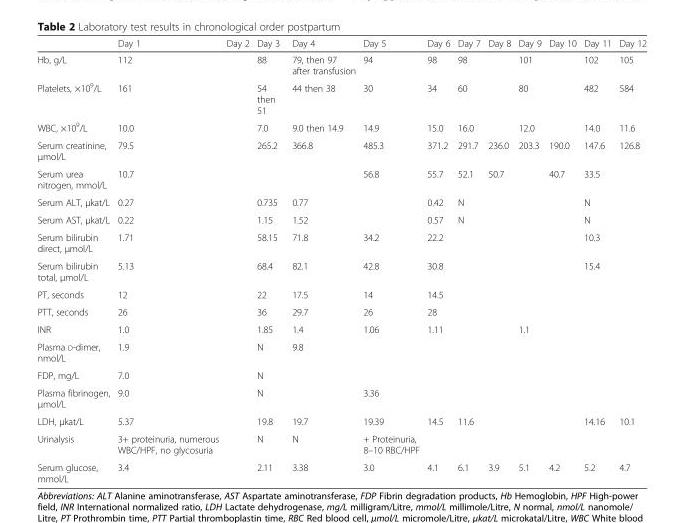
<table><thead><tr><td></td><td>Day 1</td><td>Day 2</td><td>Day 3</td><td>Day 4</td><td>Day 5</td><td>Day 6</td><td>Day 7</td><td>Day 8</td><td>Day 9</td><td>Day 10</td><td>Day 11</td><td>Day 12</td></tr></thead><tbody><tr><td>Hb, g/L</td><td>112</td><td></td><td>88</td><td>79, then 97 after transfusion</td><td>94</td><td>98</td><td>98</td><td></td><td>101</td><td></td><td>102</td><td>105</td></tr><tr><td>Platelets, ×10<sup>9</sup>/L</td><td>161</td><td></td><td>54 then 51</td><td>44 then 38</td><td>30</td><td>34</td><td>60</td><td></td><td>80</td><td></td><td>482</td><td>584</td></tr><tr><td>WBC, ×10<sup>9</sup>/L</td><td>10.0</td><td></td><td>7.0</td><td>9.0 then 14.9</td><td>14.9</td><td>15.0</td><td>16.0</td><td></td><td>12.0</td><td></td><td>14.0</td><td>11.6</td></tr><tr><td>Serum creatinine, μmol/L</td><td>79.5</td><td></td><td>265.2</td><td>366.8</td><td>485.3</td><td>371.2</td><td>291.7</td><td>236.0</td><td>203.3</td><td>190.0</td><td>147.6</td><td>126.8</td></tr><tr><td>Serum urea nitrogen, mmol/L</td><td>10.7</td><td></td><td></td><td></td><td>56.8</td><td>55.7</td><td>52.1</td><td>50.7</td><td></td><td>40.7</td><td>33.5</td><td></td></tr><tr><td>Serum ALT, μkat/L</td><td>0.27</td><td></td><td>0.735</td><td>0.77</td><td></td><td>0.42</td><td>N</td><td></td><td></td><td></td><td>N</td><td></td></tr><tr><td>Serum AST, μkat/L</td><td>0.22</td><td></td><td>1.15</td><td>1.52</td><td></td><td>0.57</td><td>N</td><td></td><td></td><td></td><td>N</td><td></td></tr><tr><td>Serum bilirubin direct, μmol/L</td><td>1.71</td><td></td><td>58.15</td><td>71.8</td><td>34.2</td><td>22.2</td><td></td><td></td><td></td><td></td><td>10.3</td><td></td></tr><tr><td>Serum bilirubin total, μmol/L</td><td>5.13</td><td></td><td>68.4</td><td>82.1</td><td>42.8</td><td>30.8</td><td></td><td></td><td></td><td></td><td>15.4</td><td></td></tr><tr><td>PT, seconds</td><td>12</td><td></td><td>22</td><td>17.5</td><td>14</td><td>14.5</td><td></td><td></td><td></td><td></td><td></td><td></td></tr><tr><td>PTT, seconds</td><td>26</td><td></td><td>36</td><td>29.7</td><td>26</td><td>28</td><td></td><td></td><td></td><td></td><td></td><td></td></tr><tr><td>INR</td><td>1.0</td><td></td><td>1.85</td><td>1.4</td><td>1.06</td><td>1.11</td><td></td><td></td><td>1.1</td><td></td><td></td><td></td></tr><tr><td>Plasma D-dimer, nmol/L</td><td>1.9</td><td></td><td>N</td><td>9.8</td><td></td><td></td><td></td><td></td><td></td><td></td><td></td><td></td></tr><tr><td>FDP, mg/L</td><td>7.0</td><td></td><td>N</td><td></td><td></td><td></td><td></td><td></td><td></td><td></td><td></td><td></td></tr><tr><td>Plasma fibrinogen, μmol/L</td><td>9.0</td><td></td><td>N</td><td></td><td>3.36</td><td></td><td></td><td></td><td></td><td></td><td></td><td></td></tr><tr><td>LDH, μkat/L</td><td>5.37</td><td></td><td>19.8</td><td>19.7</td><td>19.39</td><td>14.5</td><td>11.6</td><td></td><td></td><td></td><td>14.16</td><td>10.1</td></tr><tr><td>Urinalysis</td><td>3+ proteinuria, numerous WBC/HPF, no glycosuria</td><td></td><td>N</td><td>N</td><td>+ Proteinuria, 8–10 RBC/HPF</td><td></td><td></td><td></td><td></td><td></td><td></td><td></td></tr><tr><td>Serum glucose, mmol/L</td><td>3.4</td><td></td><td>2.11</td><td>3.38</td><td>3.0</td><td>4.1</td><td>6.1</td><td>3.9</td><td>5.1</td><td>4.2</td><td>5.2</td><td>4.7</td></tr></tbody></table>